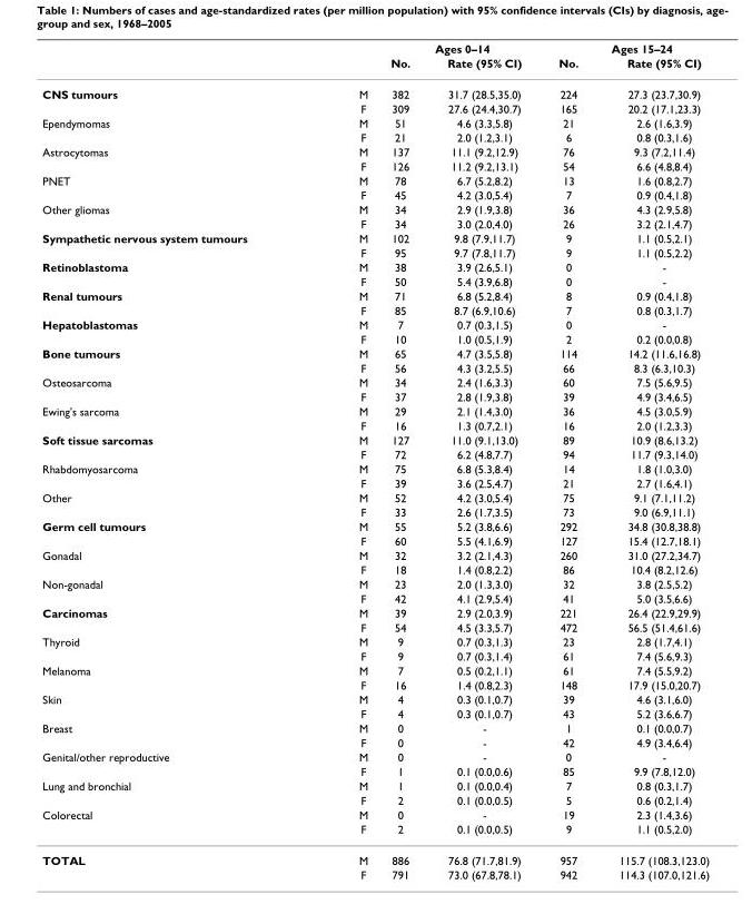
<table><thead><tr><td rowspan="2"></td><td rowspan="2"></td><td colspan="2">Ages 0–14</td><td colspan="2">Ages 15–24</td></tr><tr><td>No.</td><td>Rate (95% CI)</td><td>No.</td><td>Rate (95% CI)</td></tr></thead><tbody><tr><td rowspan="2">CNS tumours</td><td>M</td><td>382</td><td>31.7 (28.5,35.0)</td><td>224</td><td>27.3 (23.7,30.9)</td></tr><tr><td>F</td><td>309</td><td>27.6 (24.4,30.7)</td><td>165</td><td>20.2 (17.1,23.3)</td></tr><tr><td rowspan="2">Ependymomas</td><td>M</td><td>51</td><td>4.6 (3.3,5.8)</td><td>21</td><td>2.6 (1.6,3.9)</td></tr><tr><td>F</td><td>21</td><td>2.0 (1.2,3.1)</td><td>6</td><td>0.8 (0.3,1.6)</td></tr><tr><td rowspan="2">Astrocytomas</td><td>M</td><td>137</td><td>11.1 (9.2,12.9)</td><td>76</td><td>9.3 (7.2,11.4)</td></tr><tr><td>F</td><td>126</td><td>11.2 (9.2,13.1)</td><td>54</td><td>6.6 (4.8,8.4)</td></tr><tr><td rowspan="2">PNET</td><td>M</td><td>78</td><td>6.7 (5.2,8.2)</td><td>13</td><td>1.6 (0.8,2.7)</td></tr><tr><td>F</td><td>45</td><td>4.2 (3.0,5.4)</td><td>7</td><td>0.9 (0.4,1.8)</td></tr><tr><td rowspan="2">Other gliomas</td><td>M</td><td>34</td><td>2.9 (1.9,3.8)</td><td>36</td><td>4.3 (2.9,5.8)</td></tr><tr><td>F</td><td>34</td><td>3.0 (2.0,4.0)</td><td>26</td><td>3.2 (2.1,4.7)</td></tr><tr><td rowspan="2">Sympathetic nervous system tumours</td><td>M</td><td>102</td><td>9.8 (7.9,11.7)</td><td>9</td><td>1.1 (0.5,2.1)</td></tr><tr><td>F</td><td>95</td><td>9.7 (7.8,11.7)</td><td>9</td><td>1.1 (0.5,2.2)</td></tr><tr><td rowspan="2">Retinoblastoma</td><td>M</td><td>38</td><td>3.9 (2.6,5.1)</td><td>0</td><td>-</td></tr><tr><td>F</td><td>50</td><td>5.4 (3.9,6.8)</td><td>0</td><td>-</td></tr><tr><td rowspan="2">Renal tumours</td><td>M</td><td>71</td><td>6.8 (5.2,8.4)</td><td>8</td><td>0.9 (0.4,1.8)</td></tr><tr><td>F</td><td>85</td><td>8.7 (6.9,10.6)</td><td>7</td><td>0.8 (0.3,1.7)</td></tr><tr><td rowspan="2">Hepatoblastomas</td><td>M</td><td>7</td><td>0.7 (0.3,1.5)</td><td>0</td><td>-</td></tr><tr><td>F</td><td>10</td><td>1.0 (0.5,1.9)</td><td>2</td><td>0.2 (0.0,0.8)</td></tr><tr><td rowspan="2">Bone tumours</td><td>M</td><td>65</td><td>4.7 (3.5,5.8)</td><td>114</td><td>14.2 (11.6,16.8)</td></tr><tr><td>F</td><td>56</td><td>4.3 (3.2,5.5)</td><td>66</td><td>8.3 (6.3,10.3)</td></tr><tr><td rowspan="2">Osteosarcoma</td><td>M</td><td>34</td><td>2.4 (1.6,3.3)</td><td>60</td><td>7.5 (5.6,9.5)</td></tr><tr><td>F</td><td>37</td><td>2.8 (1.9,3.8)</td><td>39</td><td>4.9 (3.4,6.5)</td></tr><tr><td rowspan="2">Ewing&#x27;s sarcoma</td><td>M</td><td>29</td><td>2.1 (1.4,3.0)</td><td>36</td><td>4.5 (3.0,5.9)</td></tr><tr><td>F</td><td>16</td><td>1.3 (0.7,2.1)</td><td>16</td><td>2.0 (1.2,3.3)</td></tr><tr><td rowspan="2">Soft tissue sarcomas</td><td>M</td><td>127</td><td>11.0 (9.1,13.0)</td><td>89</td><td>10.9 (8.6,13.2)</td></tr><tr><td>F</td><td>72</td><td>6.2 (4.8,7.7)</td><td>94</td><td>11.7 (9.3,14.0)</td></tr><tr><td rowspan="2">Rhabdomyosarcoma</td><td>M</td><td>75</td><td>6.8 (5.3,8.4)</td><td>14</td><td>1.8 (1.0,3.0)</td></tr><tr><td>F</td><td>39</td><td>3.6 (2.5,4.7)</td><td>21</td><td>2.7 (1.6,4.1)</td></tr><tr><td rowspan="2">Other</td><td>M</td><td>52</td><td>4.2 (3.0,5.4)</td><td>75</td><td>9.1 (7.1,11.2)</td></tr><tr><td>F</td><td>33</td><td>2.6 (1.7,3.5)</td><td>73</td><td>9.0 (6.9,11.1)</td></tr><tr><td rowspan="2">Germ cell tumours</td><td>M</td><td>55</td><td>5.2 (3.8,6.6)</td><td>292</td><td>34.8 (30.8,38.8)</td></tr><tr><td>F</td><td>60</td><td>5.5 (4.1,6.9)</td><td>127</td><td>15.4 (12.7,18.1)</td></tr><tr><td rowspan="2">Gonadal</td><td>M</td><td>32</td><td>3.2 (2.1,4.3)</td><td>260</td><td>31.0 (27.2,34.7)</td></tr><tr><td>F</td><td>18</td><td>1.4 (0.8,2.2)</td><td>86</td><td>10.4 (8.2,12.6)</td></tr><tr><td rowspan="2">Non-gonadal</td><td>M</td><td>23</td><td>2.0 (1.3,3.0)</td><td>32</td><td>3.8 (2.5,5.2)</td></tr><tr><td>F</td><td>42</td><td>4.1 (2.9,5.4)</td><td>41</td><td>5.0 (3.5,6.6)</td></tr><tr><td rowspan="2">Carcinomas</td><td>M</td><td>39</td><td>2.9 (2.0,3.9)</td><td>221</td><td>26.4 (22.9,29.9)</td></tr><tr><td>F</td><td>54</td><td>4.5 (3.3,5.7)</td><td>472</td><td>56.5 (51.4,61.6)</td></tr><tr><td rowspan="2">Thyroid</td><td>M</td><td>9</td><td>0.7 (0.3,1.3)</td><td>23</td><td>2.8 (1.7,4.1)</td></tr><tr><td>F</td><td>9</td><td>0.7 (0.3,1.4)</td><td>61</td><td>7.4 (5.6,9.3)</td></tr><tr><td rowspan="2">Melanoma</td><td>M</td><td>7</td><td>0.5 (0.2,1.1)</td><td>61</td><td>7.4 (5.5,9.2)</td></tr><tr><td>F</td><td>16</td><td>1.4 (0.8,2.3)</td><td>148</td><td>17.9 (15.0,20.7)</td></tr><tr><td rowspan="2">Skin</td><td>M</td><td>4</td><td>0.3 (0.1,0.7)</td><td>39</td><td>4.6 (3.1,6.0)</td></tr><tr><td>F</td><td>4</td><td>0.3 (0.1,0.7)</td><td>43</td><td>5.2 (3.6,6.7)</td></tr><tr><td rowspan="2">Breast</td><td>M</td><td>0</td><td>-</td><td>1</td><td>0.1 (0.0,0.7)</td></tr><tr><td>F</td><td>0</td><td>-</td><td>42</td><td>4.9 (3.4,6.4)</td></tr><tr><td rowspan="2">Genital/other reproductive</td><td>M</td><td>0</td><td>-</td><td>0</td><td>-</td></tr><tr><td>F</td><td>1</td><td>0.1 (0.0,0.6)</td><td>85</td><td>9.9 (7.8,12.0)</td></tr><tr><td rowspan="2">Lung and bronchial</td><td>M</td><td>1</td><td>0.1 (0.0,0.4)</td><td>7</td><td>0.8 (0.3,1.7)</td></tr><tr><td>F</td><td>2</td><td>0.1 (0.0,0.5)</td><td>5</td><td>0.6 (0.2,1.4)</td></tr><tr><td rowspan="2">Colorectal</td><td>M</td><td>0</td><td>-</td><td>19</td><td>2.3 (1.4,3.6)</td></tr><tr><td>F</td><td>2</td><td>0.1 (0.0,0.5)</td><td>9</td><td>1.1 (0.5,2.0)</td></tr><tr><td rowspan="2">TOTAL</td><td>M</td><td>886</td><td>76.8 (71.7,81.9)</td><td>957</td><td>115.7 (108.3,123.0)</td></tr><tr><td>F</td><td>791</td><td>73.0 (67.8,78.1)</td><td>942</td><td>114.3 (107.0,121.6)</td></tr></tbody></table>